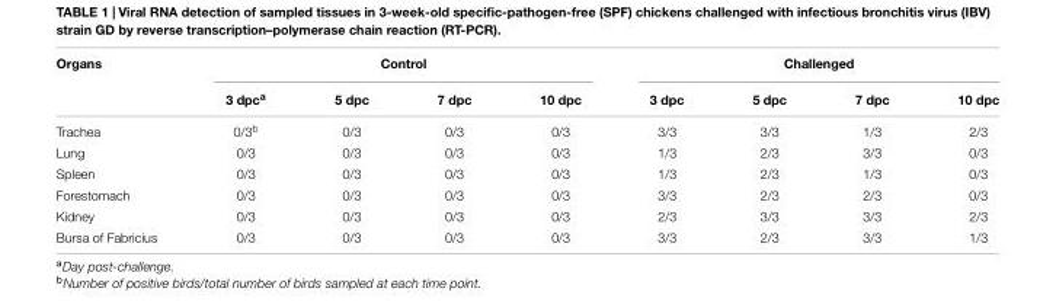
<table><thead><tr><td rowspan="2">Organs</td><td colspan="4">Control</td><td colspan="4">Challenged</td></tr><tr><td>3 dpc<sup>a</sup></td><td>5 dpc</td><td>7 dpc</td><td>10 dpc</td><td>3 dpc</td><td>5 dpc</td><td>7 dpc</td><td>10 dpc</td></tr></thead><tbody><tr><td>Trachea</td><td>0/3<sup>b</sup></td><td>0/3</td><td>0/3</td><td>0/3</td><td>3/3</td><td>3/3</td><td>1/3</td><td>2/3</td></tr><tr><td>Lung</td><td>0/3</td><td>0/3</td><td>0/3</td><td>0/3</td><td>1/3</td><td>2/3</td><td>3/3</td><td>0/3</td></tr><tr><td>Spleen</td><td>0/3</td><td>0/3</td><td>0/3</td><td>0/3</td><td>1/3</td><td>2/3</td><td>1/3</td><td>0/3</td></tr><tr><td>Forestomach</td><td>0/3</td><td>0/3</td><td>0/3</td><td>0/3</td><td>3/3</td><td>2/3</td><td>2/3</td><td>0/3</td></tr><tr><td>Kidney</td><td>0/3</td><td>0/3</td><td>0/3</td><td>0/3</td><td>2/3</td><td>3/3</td><td>3/3</td><td>2/3</td></tr><tr><td>Bursa of Fabricius</td><td>0/3</td><td>0/3</td><td>0/3</td><td>0/3</td><td>3/3</td><td>2/3</td><td>3/3</td><td>1/3</td></tr></tbody></table>